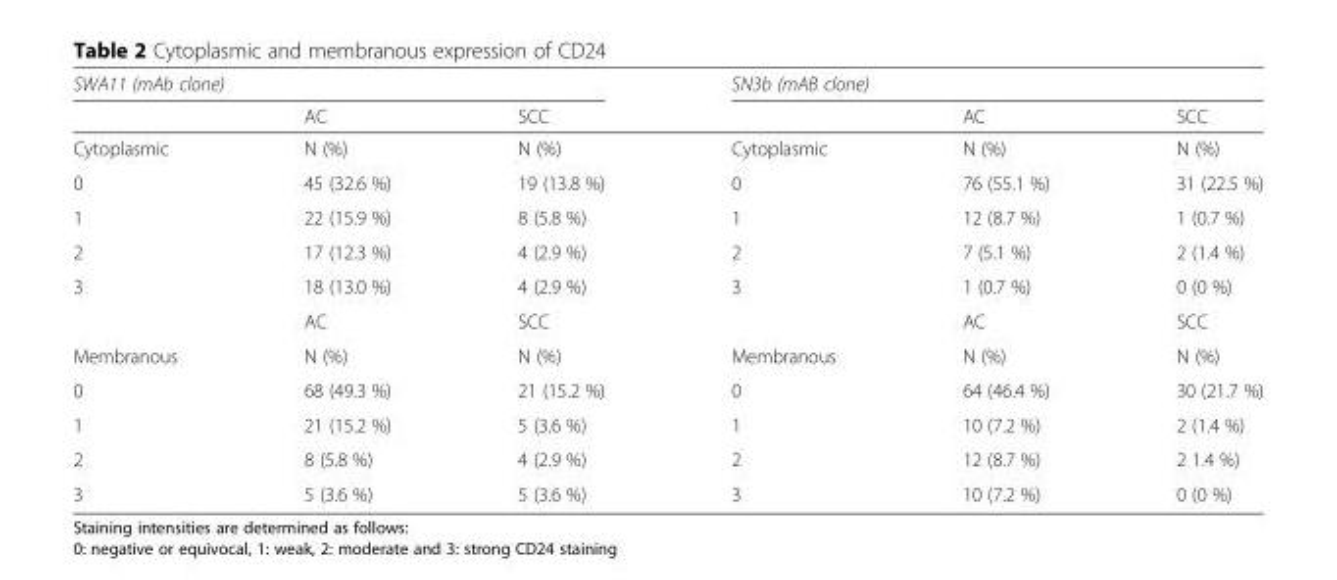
<table><thead><tr><td colspan="3">SWA11 (mAb clone)</td><td colspan="3">SN3b (mAB clone)</td></tr><tr><td></td><td>AC</td><td>SCC</td><td></td><td>AC</td><td>SCC</td></tr></thead><tbody><tr><td>Cytoplasmic</td><td>N (%)</td><td>N (%)</td><td>Cytoplasmic</td><td>N (%)</td><td>N (%)</td></tr><tr><td>0</td><td>45 (32.6 %)</td><td>19 (13.8 %)</td><td>0</td><td>76 (55.1 %)</td><td>31 (22.5 %)</td></tr><tr><td>1</td><td>22 (15.9 %)</td><td>8 (5.8 %)</td><td>1</td><td>12 (8.7 %)</td><td>1 (0.7 %)</td></tr><tr><td>2</td><td>17 (12.3 %)</td><td>4 (2.9 %)</td><td>2</td><td>7 (5.1 %)</td><td>2 (1.4 %)</td></tr><tr><td rowspan="2">3</td><td>18 (13.0 %)</td><td>4 (2.9 %)</td><td>3</td><td>1 (0.7 %)</td><td>0 (0 %)</td></tr><tr><td>AC</td><td>SCC</td><td></td><td>AC</td><td>SCC</td></tr><tr><td>Membranous</td><td>N (%)</td><td>N (%)</td><td>Membranous</td><td>N (%)</td><td>N (%)</td></tr><tr><td>0</td><td>68 (49.3 %)</td><td>21 (15.2 %)</td><td>0</td><td>64 (46.4 %)</td><td>30 (21.7 %)</td></tr><tr><td>1</td><td>21 (15.2 %)</td><td>5 (3.6 %)</td><td>1</td><td>10 (7.2 %)</td><td>2 (1.4 %)</td></tr><tr><td>2</td><td>8 (5.8 %)</td><td>4 (2.9 %)</td><td>2</td><td>12 (8.7 %)</td><td>2 1.4 %)</td></tr><tr><td>3</td><td>5 (3.6 %)</td><td>5 (3.6 %)</td><td>3</td><td>10 (7.2 %)</td><td>0 (0 %)</td></tr></tbody></table>